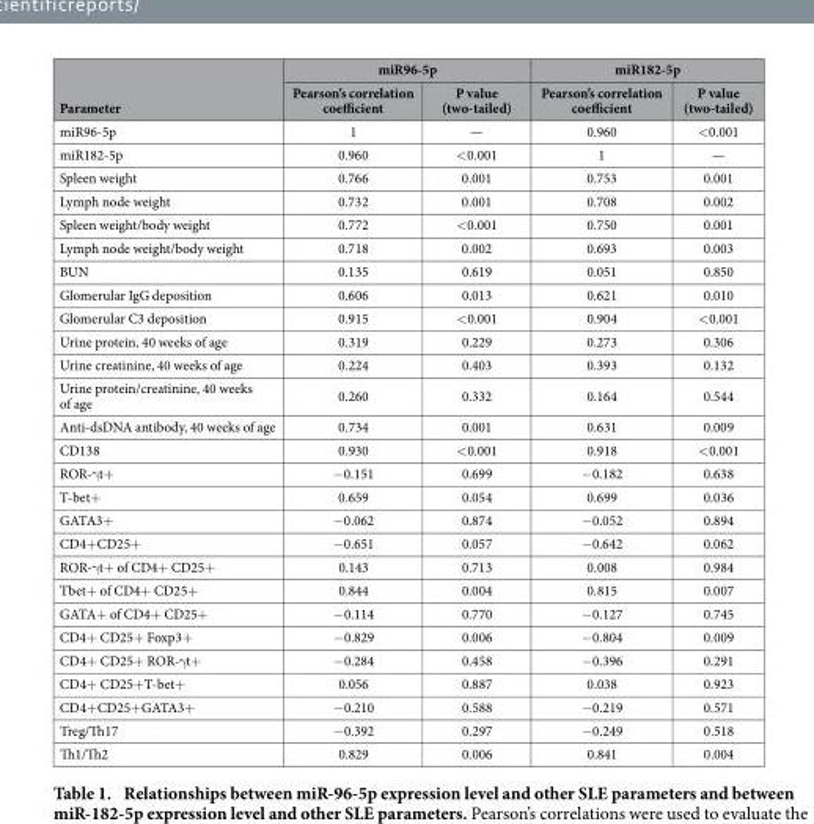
<table><thead><tr><td rowspan="2">Parameter</td><td colspan="2">miR96-5p</td><td colspan="2">miR182-5p</td></tr><tr><td>Pearson’s correlation coefficient</td><td>P value (two-tailed)</td><td>Pearson’s correlation coefficient</td><td>P value (two-tailed)</td></tr></thead><tbody><tr><td>miR96-5p</td><td>1</td><td>—</td><td>0.960</td><td>&lt; 0.001</td></tr><tr><td>miR182-5p</td><td>0.960</td><td>&lt; 0.001</td><td>1</td><td>—</td></tr><tr><td>Spleen weight</td><td>0.766</td><td>0.001</td><td>0.753</td><td>0.001</td></tr><tr><td>Lymph node weight</td><td>0.732</td><td>0.001</td><td>0.708</td><td>0.002</td></tr><tr><td>Spleen weight/body weight</td><td>0.772</td><td>&lt; 0.001</td><td>0.750</td><td>0.001</td></tr><tr><td>Lymph node weight/body weight</td><td>0.718</td><td>0.002</td><td>0.693</td><td>0.003</td></tr><tr><td>BUN</td><td>0.135</td><td>0.619</td><td>0.051</td><td>0.850</td></tr><tr><td>Glomerular IgG deposition</td><td>0.606</td><td>0.013</td><td>0.621</td><td>0.010</td></tr><tr><td>Glomerular C3 deposition</td><td>0.915</td><td>&lt; 0.001</td><td>0.904</td><td>&lt; 0.001</td></tr><tr><td>Urine protein, 40 weeks of age</td><td>0.319</td><td>0.229</td><td>0.273</td><td>0.306</td></tr><tr><td>Urine creatinine, 40 weeks of age</td><td>0.224</td><td>0.403</td><td>0.393</td><td>0.132</td></tr><tr><td>Urine protein/creatinine, 40 weeks of age</td><td>0.260</td><td>0.332</td><td>0.164</td><td>0.544</td></tr><tr><td>Anti-dsDNA antibody, 40 weeks of age</td><td>0.734</td><td>0.001</td><td>0.631</td><td>0.009</td></tr><tr><td>CD138</td><td>0.930</td><td>&lt; 0.001</td><td>0.918</td><td>&lt; 0.001</td></tr><tr><td>ROR-γ t+</td><td>− 0.151</td><td>0.699</td><td>− 0.182</td><td>0.638</td></tr><tr><td>T-bet+</td><td>0.659</td><td>0.054</td><td>0.699</td><td>0.036</td></tr><tr><td>GATA3+</td><td>− 0.062</td><td>0.874</td><td>− 0.052</td><td>0.894</td></tr><tr><td>CD4+ CD25+</td><td>− 0.651</td><td>0.057</td><td>− 0.642</td><td>0.062</td></tr><tr><td>ROR-γ t+ of CD4+ CD25+</td><td>0.143</td><td>0.713</td><td>0.008</td><td>0.984</td></tr><tr><td>Tbet+ of CD4+ CD25+</td><td>0.844</td><td>0.004</td><td>0.815</td><td>0.007</td></tr><tr><td>GATA+ of CD4+ CD25+</td><td>− 0.114</td><td>0.770</td><td>− 0.127</td><td>0.745</td></tr><tr><td>CD4+ CD25+ Foxp3+</td><td>− 0.829</td><td>0.006</td><td>− 0.804</td><td>0.009</td></tr><tr><td>CD4+ CD25+ ROR-γ t+</td><td>− 0.284</td><td>0.458</td><td>− 0.396</td><td>0.291</td></tr><tr><td>CD4+ CD25+ T-bet+</td><td>0.056</td><td>0.887</td><td>0.038</td><td>0.923</td></tr><tr><td>CD4+ CD25+ GATA3+</td><td>− 0.210</td><td>0.588</td><td>− 0.219</td><td>0.571</td></tr><tr><td>Treg/Th17</td><td>− 0.392</td><td>0.297</td><td>− 0.249</td><td>0.518</td></tr><tr><td>Th1/Th2</td><td>0.829</td><td>0.006</td><td>0.841</td><td>0.004</td></tr></tbody></table>